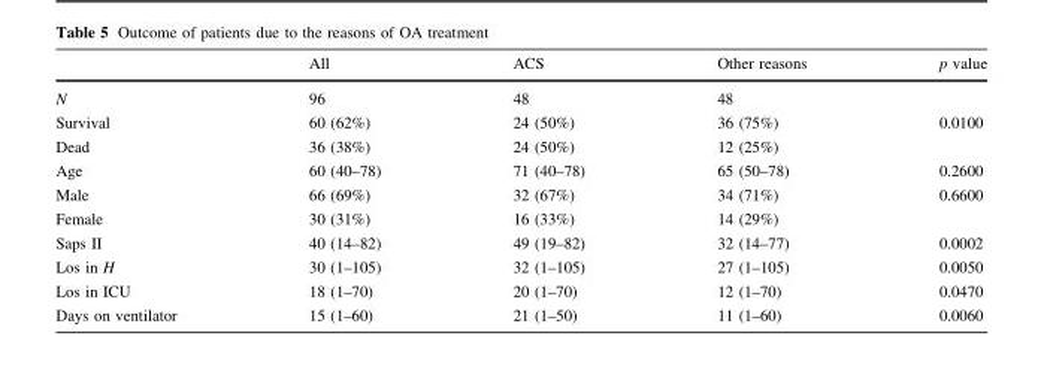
<table><thead><tr><td></td><td>All</td><td>ACS</td><td>Other reasons</td><td>p value</td></tr></thead><tbody><tr><td>N</td><td>96</td><td>48</td><td>48</td><td></td></tr><tr><td>Survival</td><td>60 (62%)</td><td>24 (50%)</td><td>36 (75%)</td><td>0.0100</td></tr><tr><td>Dead</td><td>36 (38%)</td><td>24 (50%)</td><td>12 (25%)</td><td></td></tr><tr><td>Age</td><td>60 (40–78)</td><td>71 (40–78)</td><td>65 (50–78)</td><td>0.2600</td></tr><tr><td>Male</td><td>66 (69%)</td><td>32 (67%)</td><td>34 (71%)</td><td>0.6600</td></tr><tr><td>Female</td><td>30 (31%)</td><td>16 (33%)</td><td>14 (29%)</td><td></td></tr><tr><td>Saps II</td><td>40 (14–82)</td><td>49 (19–82)</td><td>32 (14–77)</td><td>0.0002</td></tr><tr><td>Los in H</td><td>30 (1–105)</td><td>32 (1–105)</td><td>27 (1–105)</td><td>0.0050</td></tr><tr><td>Los in ICU</td><td>18 (1–70)</td><td>20 (1–70)</td><td>12 (1–70)</td><td>0.0470</td></tr><tr><td>Days on ventilator</td><td>15 (1–60)</td><td>21 (1–50)</td><td>11 (1–60)</td><td>0.0060</td></tr></tbody></table>